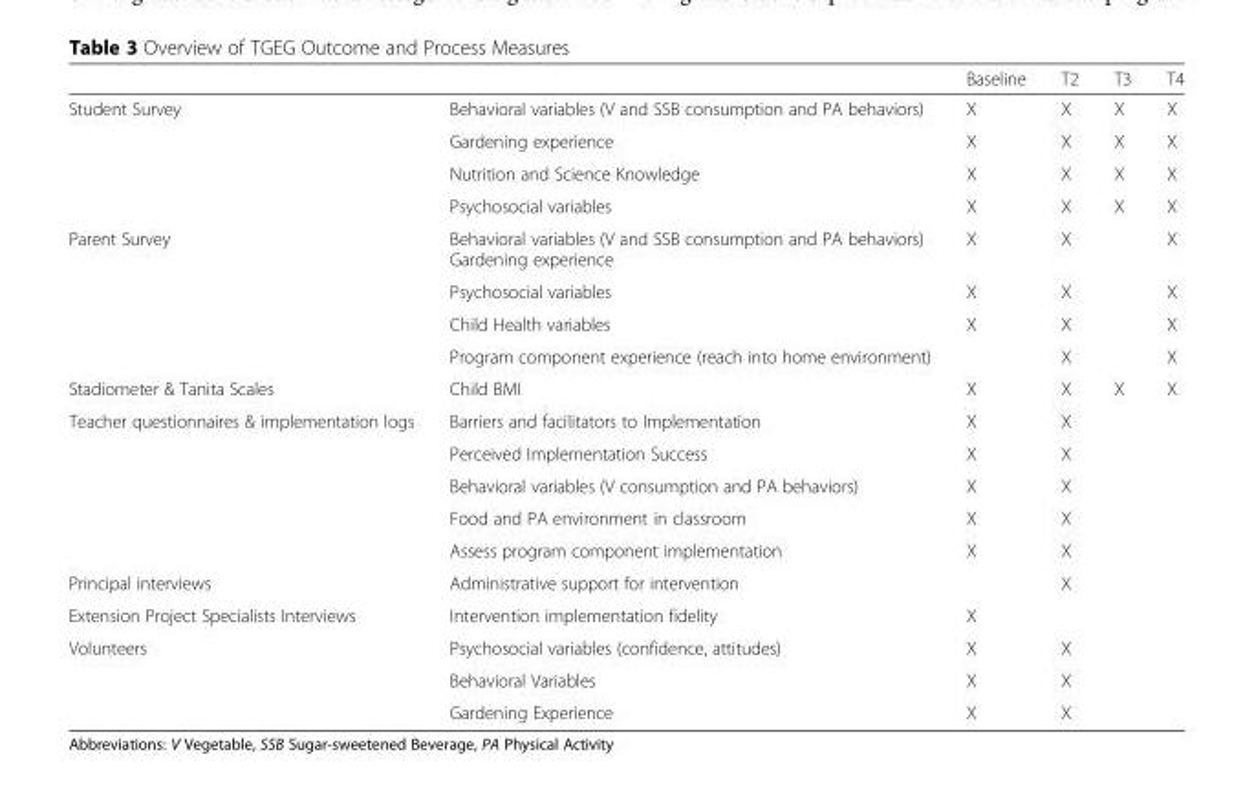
<table><thead><tr><td></td><td></td><td>Baseline</td><td>T2</td><td>T3</td><td>T4</td></tr></thead><tbody><tr><td rowspan="4">Student Survey</td><td>Behavioral variables (V and SSB consumption and PA behaviors)</td><td>X</td><td>X</td><td>X</td><td>X</td></tr><tr><td>Gardening experience</td><td>X</td><td>X</td><td>X</td><td>X</td></tr><tr><td>Nutrition and Science Knowledge</td><td>X</td><td>X</td><td>X</td><td>X</td></tr><tr><td>Psychosocial variables</td><td>X</td><td>X</td><td>X</td><td>X</td></tr><tr><td rowspan="4">Parent Survey</td><td>Behavioral variables (V and SSB consumption and PA behaviors) Gardening experience</td><td>X</td><td>X</td><td></td><td>X</td></tr><tr><td>Psychosocial variables</td><td>X</td><td>X</td><td></td><td>X</td></tr><tr><td>Child Health variables</td><td>X</td><td>X</td><td></td><td>X</td></tr><tr><td>Program component experience (reach into home environment)</td><td></td><td>X</td><td></td><td>X</td></tr><tr><td>Stadiometer &amp; Tanita Scales</td><td>Child BMI</td><td>X</td><td>X</td><td>X</td><td>X</td></tr><tr><td rowspan="5">Teacher questionnaires &amp; implementation logs</td><td>Barriers and facilitators to Implementation</td><td>X</td><td>X</td><td></td><td></td></tr><tr><td>Perceived Implementation Success</td><td>X</td><td>X</td><td></td><td></td></tr><tr><td>Behavioral variables (V consumption and PA behaviors)</td><td>X</td><td>X</td><td></td><td></td></tr><tr><td>Food and PA environment in classroom</td><td>X</td><td>X</td><td></td><td></td></tr><tr><td>Assess program component implementation</td><td>X</td><td>X</td><td></td><td></td></tr><tr><td>Principal interviews</td><td>Administrative support for intervention</td><td></td><td>X</td><td></td><td></td></tr><tr><td>Extension Project Specialists Interviews</td><td>Intervention implementation fidelity</td><td>X</td><td></td><td></td><td></td></tr><tr><td rowspan="3">Volunteers</td><td>Psychosocial variables (confidence, attitudes)</td><td>X</td><td>X</td><td></td><td></td></tr><tr><td>Behavioral Variables</td><td>X</td><td>X</td><td></td><td></td></tr><tr><td>Gardening Experience</td><td>X</td><td>X</td><td></td><td></td></tr></tbody></table>